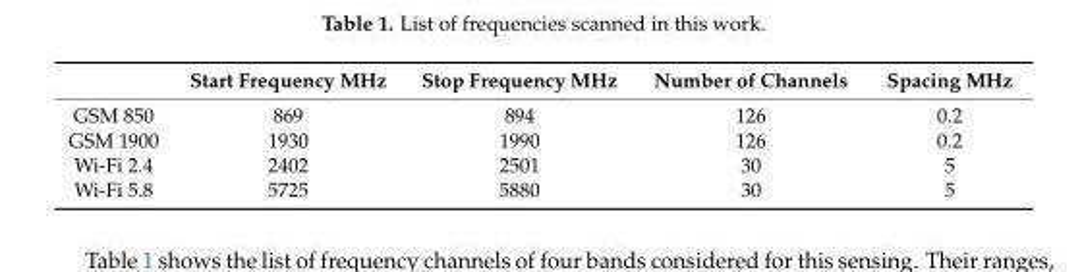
<table><thead><tr><td></td><td>Start Frequency MHz</td><td>Stop Frequency MHz</td><td>Number of Channels</td><td>Spacing MHz</td></tr></thead><tbody><tr><td>GSM 850</td><td>869</td><td>894</td><td>126</td><td>0.2</td></tr><tr><td>GSM 1900</td><td>1930</td><td>1990</td><td>126</td><td>0.2</td></tr><tr><td>Wi-Fi 2.4</td><td>2402</td><td>2501</td><td>30</td><td>5</td></tr><tr><td>Wi-Fi 5.8</td><td>5725</td><td>5880</td><td>30</td><td>5</td></tr></tbody></table>